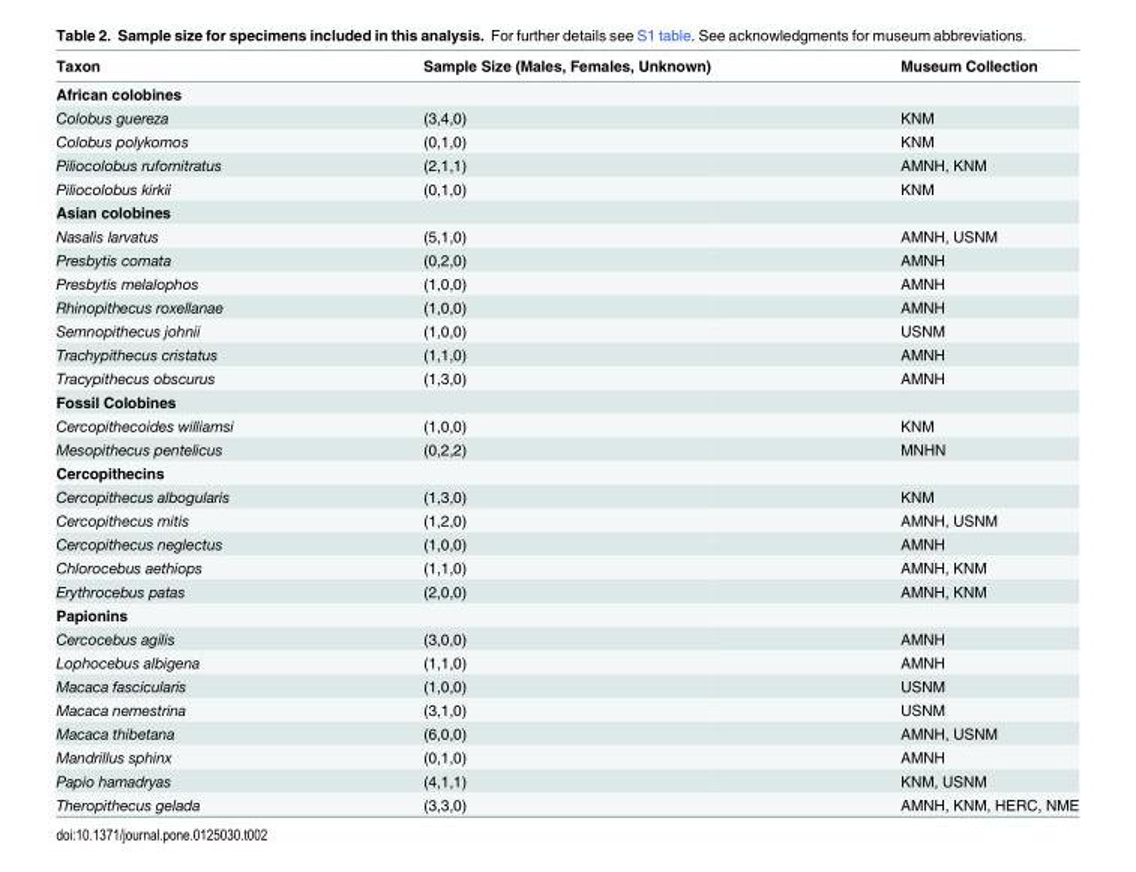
<table><thead><tr><td>Taxon</td><td>Sample Size (Males, Females, Unknown)</td><td>Museum Collection</td></tr></thead><tbody><tr><td colspan="3">African colobines</td></tr><tr><td>Colobus guereza</td><td>(3,4,0)</td><td>KNM</td></tr><tr><td>Colobus polykomos</td><td>(0,1,0)</td><td>KNM</td></tr><tr><td>Piliocolobus rufomitratus</td><td>(2,1,1)</td><td>AMNH, KNM</td></tr><tr><td>Piliocolobus kirkii</td><td>(0,1,0)</td><td>KNM</td></tr><tr><td colspan="3">Asian colobines</td></tr><tr><td>Nasalis larvatus</td><td>(5,1,0)</td><td>AMNH, USNM</td></tr><tr><td>Presbytis comata</td><td>(0,2,0)</td><td>AMNH</td></tr><tr><td>Presbytis melalophos</td><td>(1,0,0)</td><td>AMNH</td></tr><tr><td>Rhinopithecus roxellanae</td><td>(1,0,0)</td><td>AMNH</td></tr><tr><td>Semnopithecus johnii</td><td>(1,0,0)</td><td>USNM</td></tr><tr><td>Trachypithecus cristatus</td><td>(1,1,0)</td><td>AMNH</td></tr><tr><td>Tracypithecus obscurus</td><td>(1,3,0)</td><td>AMNH</td></tr><tr><td colspan="3">Fossil Colobines</td></tr><tr><td>Cercopithecoides williamsi</td><td>(1,0,0)</td><td>KNM</td></tr><tr><td>Mesopithecus pentelicus</td><td>(0,2,2)</td><td>MNHN</td></tr><tr><td colspan="3">Cercopithecins</td></tr><tr><td>Cercopithecus albogularis</td><td>(1,3,0)</td><td>KNM</td></tr><tr><td>Cercopithecus mitis</td><td>(1,2,0)</td><td>AMNH, USNM</td></tr><tr><td>Cercopithecus neglectus</td><td>(1,0,0)</td><td>AMNH</td></tr><tr><td>Chlorocebus aethiops</td><td>(1,1,0)</td><td>AMNH, KNM</td></tr><tr><td>Erythrocebus patas</td><td>(2,0,0)</td><td>AMNH, KNM</td></tr><tr><td colspan="3">Papionins</td></tr><tr><td>Cercocebus agilis</td><td>(3,0,0)</td><td>AMNH</td></tr><tr><td>Lophocebus albigena</td><td>(1,1,0)</td><td>AMNH</td></tr><tr><td>Macaca fascicularis</td><td>(1,0,0)</td><td>USNM</td></tr><tr><td>Macaca nemestrina</td><td>(3,1,0)</td><td>USNM</td></tr><tr><td>Macaca thibetana</td><td>(6,0,0)</td><td>AMNH, USNM</td></tr><tr><td>Mandrillus sphinx</td><td>(0,1,0)</td><td>AMNH</td></tr><tr><td>Papio hamadryas</td><td>(4,1,1)</td><td>KNM, USNM</td></tr><tr><td>Theropithecus gelada</td><td>(3,3,0)</td><td>AMNH, KNM, HERC, NME</td></tr></tbody></table>